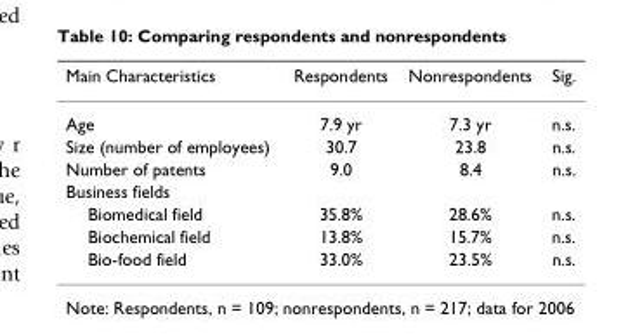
<table><thead><tr><td>Main Characteristics</td><td>Respondents</td><td>Nonrespondents</td><td>Sig.</td></tr></thead><tbody><tr><td>Age</td><td>7.9 yr</td><td>7.3 yr</td><td>n.s.</td></tr><tr><td>Size (number of employees)</td><td>30.7</td><td>23.8</td><td>n.s.</td></tr><tr><td>Number of patents</td><td>9.0</td><td>8.4</td><td>n.s.</td></tr><tr><td colspan="4">Business fields</td></tr><tr><td>Biomedical field</td><td>35.8%</td><td>28.6%</td><td>n.s.</td></tr><tr><td>Biochemical field</td><td>13.8%</td><td>15.7%</td><td>n.s.</td></tr><tr><td>Bio-food field</td><td>33.0%</td><td>23.5%</td><td>n.s.</td></tr></tbody></table>